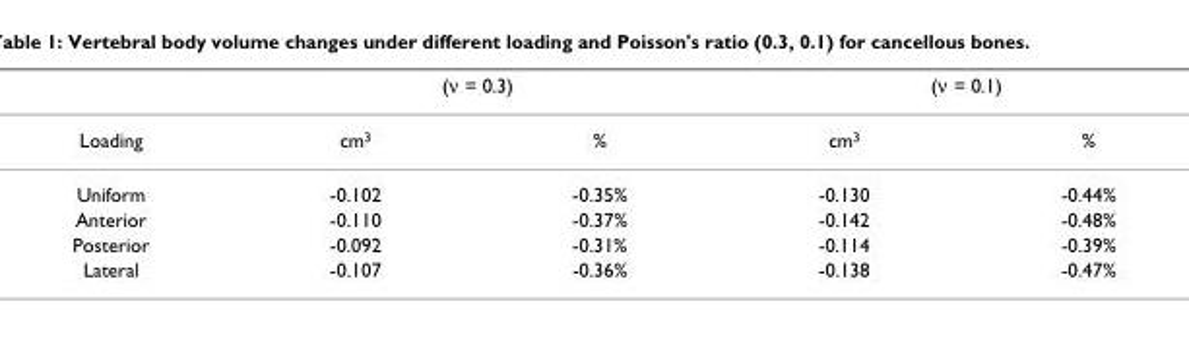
<table><thead><tr><td rowspan="2">Loading</td><td colspan="2">(ν = 0.3)</td><td colspan="2">(ν = 0.1)</td></tr><tr><td>cm<sup>3</sup></td><td>%</td><td>cm<sup>3</sup></td><td>%</td></tr></thead><tbody><tr><td>Uniform</td><td>-0.102</td><td>-0.35%</td><td>-0.130</td><td>-0.44%</td></tr><tr><td>Anterior</td><td>-0.110</td><td>-0.37%</td><td>-0.142</td><td>-0.48%</td></tr><tr><td>Posterior</td><td>-0.092</td><td>-0.31%</td><td>-0.114</td><td>-0.39%</td></tr><tr><td>Lateral</td><td>-0.107</td><td>-0.36%</td><td>-0.138</td><td>-0.47%</td></tr></tbody></table>